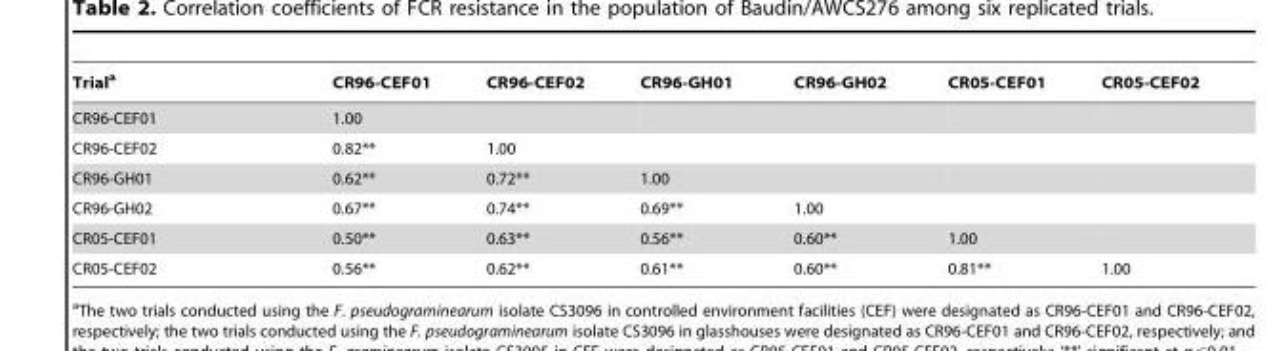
<table><thead><tr><td>Trial<sup>a</sup></td><td>CR96-CEF01</td><td>CR96-CEF02</td><td>CR96-GH01</td><td>CR96-GH02</td><td>CR05-CEF01</td><td>CR05-CEF02</td></tr></thead><tbody><tr><td>CR96-CEF01</td><td>1.00</td><td></td><td></td><td></td><td></td><td></td></tr><tr><td>CR96-CEF02</td><td>0.82**</td><td>1.00</td><td></td><td></td><td></td><td></td></tr><tr><td>CR96-GH01</td><td>0.62**</td><td>0.72**</td><td>1.00</td><td></td><td></td><td></td></tr><tr><td>CR96-GH02</td><td>0.67**</td><td>0.74**</td><td>0.69**</td><td>1.00</td><td></td><td></td></tr><tr><td>CR05-CEF01</td><td>0.50**</td><td>0.63**</td><td>0.56**</td><td>0.60**</td><td>1.00</td><td></td></tr><tr><td>CR05-CEF02</td><td>0.56**</td><td>0.62**</td><td>0.61**</td><td>0.60**</td><td>0.81**</td><td>1.00</td></tr></tbody></table>